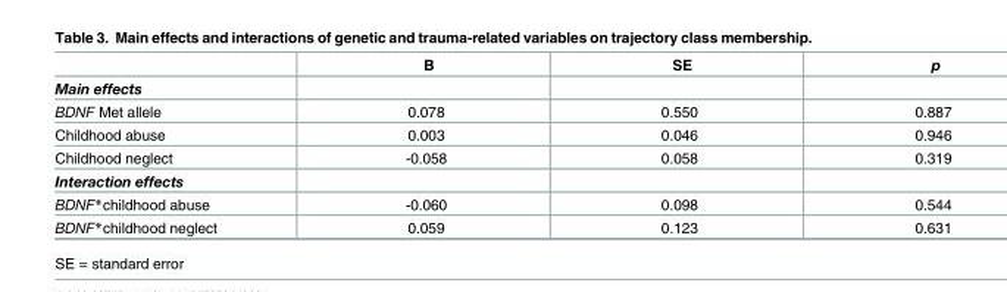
<table><thead><tr><td></td><td>B</td><td>SE</td><td>p</td></tr></thead><tbody><tr><td colspan="4">Main effects</td></tr><tr><td>BDNF Met allele</td><td>0.078</td><td>0.550</td><td>0.887</td></tr><tr><td>Childhood abuse</td><td>0.003</td><td>0.046</td><td>0.946</td></tr><tr><td>Childhood neglect</td><td>-0.058</td><td>0.058</td><td>0.319</td></tr><tr><td colspan="4">Interaction effects</td></tr><tr><td>BDNF*childhood abuse</td><td>-0.060</td><td>0.098</td><td>0.544</td></tr><tr><td>BDNF*childhood neglect</td><td>0.059</td><td>0.123</td><td>0.631</td></tr></tbody></table>